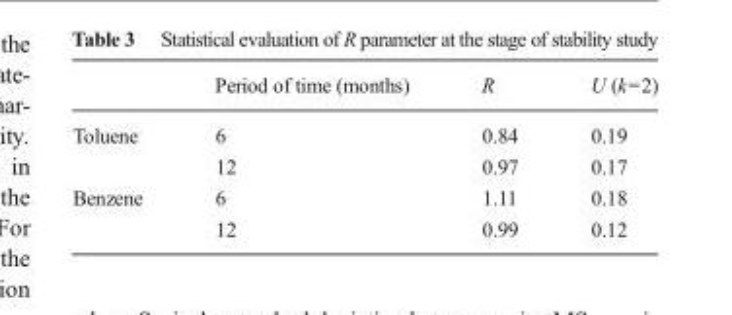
<table><thead><tr><td></td><td>Period of time (months)</td><td>R</td><td>U (k=2)</td></tr></thead><tbody><tr><td rowspan="2">Toluene</td><td>6</td><td>0.84</td><td>0.19</td></tr><tr><td>12</td><td>0.97</td><td>0.17</td></tr><tr><td rowspan="2">Benzene</td><td>6</td><td>1.11</td><td>0.18</td></tr><tr><td>12</td><td>0.99</td><td>0.12</td></tr></tbody></table>